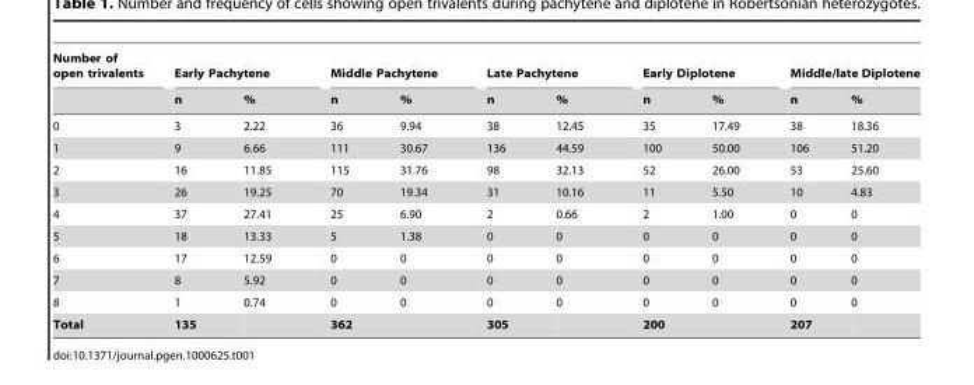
<table><thead><tr><td rowspan="2">Number of open trivalents</td><td colspan="2">Early Pachytene</td><td colspan="2">Middle Pachytene</td><td colspan="2">Late Pachytene</td><td colspan="2">Early Diplotene</td><td colspan="2">Middle/late Diplotene</td></tr><tr><td>n</td><td>%</td><td>n</td><td>%</td><td>n</td><td>%</td><td>n</td><td>%</td><td>n</td><td>%</td></tr></thead><tbody><tr><td>0</td><td>3</td><td>2.22</td><td>36</td><td>9.94</td><td>38</td><td>12.45</td><td>35</td><td>17.49</td><td>38</td><td>18.36</td></tr><tr><td>1</td><td>9</td><td>6.66</td><td>111</td><td>30.67</td><td>136</td><td>44.59</td><td>100</td><td>50.00</td><td>106</td><td>51.20</td></tr><tr><td>2</td><td>16</td><td>11.85</td><td>115</td><td>31.76</td><td>98</td><td>32.13</td><td>52</td><td>26.00</td><td>53</td><td>25.60</td></tr><tr><td>3</td><td>26</td><td>19.25</td><td>70</td><td>19.34</td><td>31</td><td>10.16</td><td>11</td><td>5.50</td><td>10</td><td>4.83</td></tr><tr><td>4</td><td>37</td><td>27.41</td><td>25</td><td>6.90</td><td>2</td><td>0.66</td><td>2</td><td>1.00</td><td>0</td><td>0</td></tr><tr><td>5</td><td>18</td><td>13.33</td><td>5</td><td>1.38</td><td>0</td><td>0</td><td>0</td><td>0</td><td>0</td><td>0</td></tr><tr><td>6</td><td>17</td><td>12.59</td><td>0</td><td>0</td><td>0</td><td>0</td><td>0</td><td>0</td><td>0</td><td>0</td></tr><tr><td>7</td><td>8</td><td>5.92</td><td>0</td><td>0</td><td>0</td><td>0</td><td>0</td><td>0</td><td>0</td><td>0</td></tr><tr><td>8</td><td>1</td><td>0.74</td><td>0</td><td>0</td><td>0</td><td>0</td><td>0</td><td>0</td><td>0</td><td>0</td></tr><tr><td>Total</td><td>135</td><td></td><td>362</td><td></td><td>305</td><td></td><td>200</td><td></td><td>207</td><td></td></tr></tbody></table>